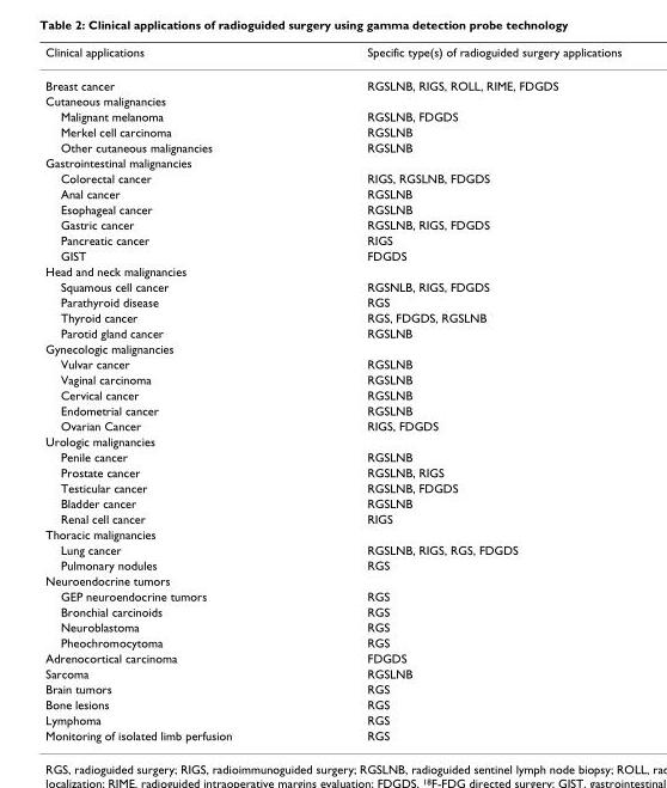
<table><thead><tr><td>Clinical applications</td><td>Specific type(s) of radioguided surgery applications</td></tr></thead><tbody><tr><td>Breast cancer</td><td>RGSLNB, RIGS, ROLL, RIME, FDGDS</td></tr><tr><td colspan="2">Cutaneous malignancies</td></tr><tr><td>Malignant melanoma</td><td>RGSLNB, FDGDS</td></tr><tr><td>Merkel cell carcinoma</td><td>RGSLNB</td></tr><tr><td>Other cutaneous malignancies</td><td>RGSLNB</td></tr><tr><td colspan="2">Gastrointestinal malignancies</td></tr><tr><td>Colorectal cancer</td><td>RIGS, RGSLNB, FDGDS</td></tr><tr><td>Anal cancer</td><td>RGSLNB</td></tr><tr><td>Esophageal cancer</td><td>RGSLNB</td></tr><tr><td>Gastric cancer</td><td>RGSLNB, RIGS, FDGDS</td></tr><tr><td>Pancreatic cancer</td><td>RIGS</td></tr><tr><td>GIST</td><td>FDGDS</td></tr><tr><td colspan="2">Head and neck malignancies</td></tr><tr><td>Squamous cell cancer</td><td>RGSNLB, RIGS, FDGDS</td></tr><tr><td>Parathyroid disease</td><td>RGS</td></tr><tr><td>Thyroid cancer</td><td>RGS, FDGDS, RGSLNB</td></tr><tr><td>Parotid gland cancer</td><td>RGSLNB</td></tr><tr><td colspan="2">Gynecologic malignancies</td></tr><tr><td>Vulvar cancer</td><td>RGSLNB</td></tr><tr><td>Vaginal carcinoma</td><td>RGSLNB</td></tr><tr><td>Cervical cancer</td><td>RGSLNB</td></tr><tr><td>Endometrial cancer</td><td>RGSLNB</td></tr><tr><td>Ovarian Cancer</td><td>RIGS, FDGDS</td></tr><tr><td colspan="2">Urologic malignancies</td></tr><tr><td>Penile cancer</td><td>RGSLNB</td></tr><tr><td>Prostate cancer</td><td>RGSLNB, RIGS</td></tr><tr><td>Testicular cancer</td><td>RGSLNB, FDGDS</td></tr><tr><td>Bladder cancer</td><td>RGSLNB</td></tr><tr><td>Renal cell cancer</td><td>RIGS</td></tr><tr><td colspan="2">Thoracic malignancies</td></tr><tr><td>Lung cancer</td><td>RGSLNB, RIGS, RGS, FDGDS</td></tr><tr><td>Pulmonary nodules</td><td>RGS</td></tr><tr><td colspan="2">Neuroendocrine tumors</td></tr><tr><td>GEP neuroendocrine tumors</td><td>RGS</td></tr><tr><td>Bronchial carcinoids</td><td>RGS</td></tr><tr><td>Neuroblastoma</td><td>RGS</td></tr><tr><td>Pheochromocytoma</td><td>RGS</td></tr><tr><td>Adrenocortical carcinoma</td><td>FDGDS</td></tr><tr><td>Sarcoma</td><td>RGSLNB</td></tr><tr><td>Brain tumors</td><td>RGS</td></tr><tr><td>Bone lesions</td><td>RGS</td></tr><tr><td>Lymphoma</td><td>RGS</td></tr><tr><td>Monitoring of isolated limb perfusion</td><td>RGS</td></tr></tbody></table>